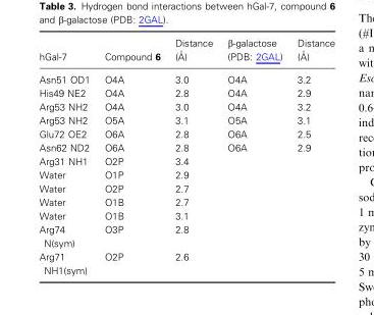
<table><thead><tr><td>hGal-7</td><td>Compound 6</td><td>Distance (A˚ )</td><td>β-galactose (PDB: 2GAL)</td><td>Distance (A˚ )</td></tr></thead><tbody><tr><td>Asn51 OD1</td><td>O4A</td><td>3.0</td><td>O4A</td><td>3.2</td></tr><tr><td>His49 NE2</td><td>O4A</td><td>2.8</td><td>O4A</td><td>2.9</td></tr><tr><td>Arg53 NH2</td><td>O4A</td><td>3.0</td><td>O4A</td><td>3.2</td></tr><tr><td>Arg53 NH2</td><td>O5A</td><td>3.1</td><td>O5A</td><td>3.1</td></tr><tr><td>Glu72 OE2</td><td>O6A</td><td>2.8</td><td>O6A</td><td>2.5</td></tr><tr><td>Asn62 ND2</td><td>O6A</td><td>2.8</td><td>O6A</td><td>2.9</td></tr><tr><td>Arg31 NH1</td><td>O2P</td><td>3.4</td><td></td><td></td></tr><tr><td>Water</td><td>O1P</td><td>2.9</td><td></td><td></td></tr><tr><td>Water</td><td>O2P</td><td>2.7</td><td></td><td></td></tr><tr><td>Water</td><td>O1B</td><td>2.7</td><td></td><td></td></tr><tr><td>Water</td><td>O1B</td><td>3.1</td><td></td><td></td></tr><tr><td>Arg74 N(sym)</td><td>O3P</td><td>2.8</td><td></td><td></td></tr><tr><td>Arg71 NH1(sym)</td><td>O2P</td><td>2.6</td><td></td><td></td></tr></tbody></table>